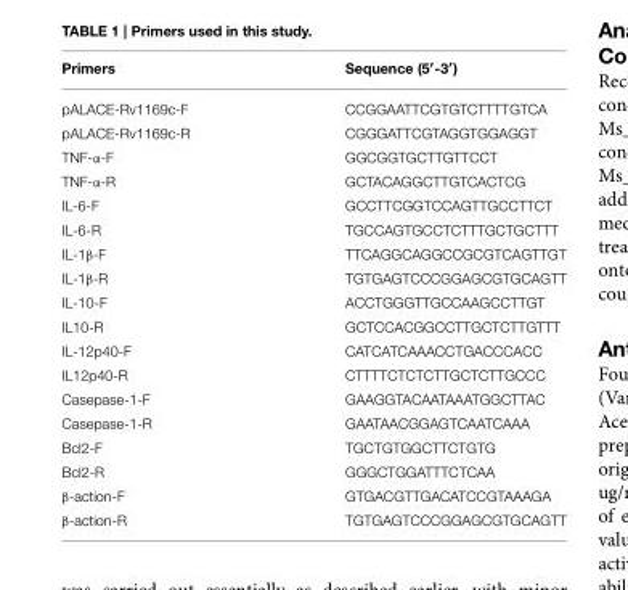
<table><thead><tr><td>Primers</td><td>Sequence (5′-3′)</td></tr></thead><tbody><tr><td>pALACE-Rv1169c-F</td><td>CCGGAATTCGTGTCTTTTGTCA</td></tr><tr><td>pALACE-Rv1169c-R</td><td>CGGGATTCGTAGGTGGAGGT</td></tr><tr><td>TNF-α-F</td><td>GGCGGTGCTTGTTCCT</td></tr><tr><td>TNF-α-R</td><td>GCTACAGGCTTGTCACTCG</td></tr><tr><td>IL-6-F</td><td>GCCTTCGGTCCAGTTGCCTTCT</td></tr><tr><td>IL-6-R</td><td>TGCCAGTGCCTCTTTGCTGCTTT</td></tr><tr><td>IL-1β-F</td><td>TTCAGGCAGGCCGCGTCAGTTGT</td></tr><tr><td>IL-1β-R</td><td>TGTGAGTCCCGGAGCGTGCAGTT</td></tr><tr><td>IL-10-F</td><td>ACCTGGGTTGCCAAGCCTTGT</td></tr><tr><td>IL10-R</td><td>GCTCCACGGCCTTGCTCTTGTTT</td></tr><tr><td>IL-12p40-F</td><td>CATCATCAAACCTGACCCACC</td></tr><tr><td>IL12p40-R</td><td>CTTTTCTCTCTTGCTCTTGCCC</td></tr><tr><td>Casepase-1-F</td><td>GAAGGTACAATAAATGGCTTAC</td></tr><tr><td>Casepase-1-R</td><td>GAATAACGGAGTCAATCAAA</td></tr><tr><td>Bcl2-F</td><td>TGCTGTGGCTTCTGTG</td></tr><tr><td>Bcl2-R</td><td>GGGCTGGATTTCTCAA</td></tr><tr><td>β-action-F</td><td>GTGACGTTGACATCCGTAAAGA</td></tr><tr><td>β-action-R</td><td>TGTGAGTCCCGGAGCGTGCAGTT</td></tr></tbody></table>